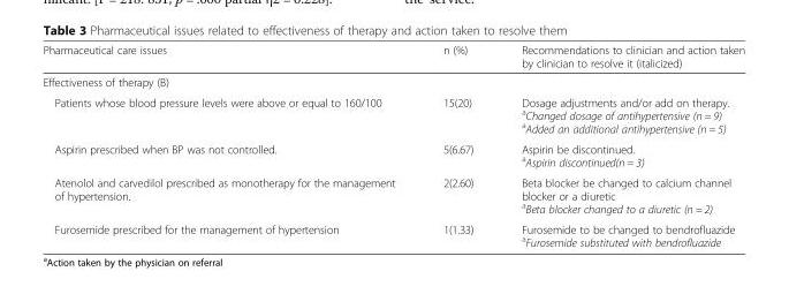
<table><thead><tr><td>Pharmaceutical care issues</td><td>n (%)</td><td>Recommendations to clinician and action taken by clinician to resolve it (italicized)</td></tr></thead><tbody><tr><td colspan="3">Effectiveness of therapy (B)</td></tr><tr><td>Patients whose blood pressure levels were above or equal to 160/100</td><td>15(20)</td><td>Dosage adjustments and/or add on therapy. <sup>a</sup>Changed dosage of antihypertensive (n = 9) <sup>a</sup>Added an additional antihypertensive (n = 5)</td></tr><tr><td>Aspirin prescribed when BP was not controlled.</td><td>5(6.67)</td><td>Aspirin be discontinued. <sup>a</sup>Aspirin discontinued(n = 3)</td></tr><tr><td>Atenolol and carvedilol prescribed as monotherapy for the management of hypertension.</td><td>2(2.60)</td><td>Beta blocker be changed to calcium channel blocker or a diuretic <sup>a</sup>Beta blocker changed to a diuretic (n = 2)</td></tr><tr><td>Furosemide prescribed for the management of hypertension</td><td>1(1.33)</td><td>Furosemide to be changed to bendrofluazide <sup>a</sup>Furosemide substituted with bendrofluazide</td></tr></tbody></table>